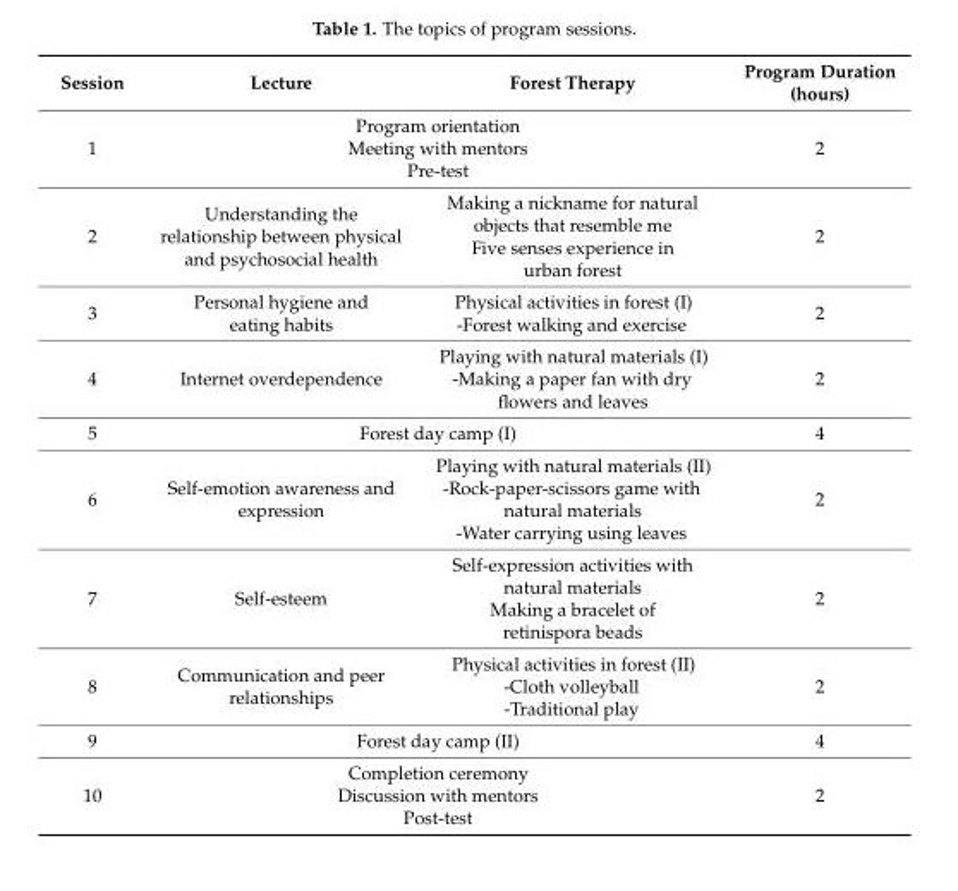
<table><thead><tr><td>Session</td><td>Lecture</td><td>Forest Therapy</td><td>Program Duration (hours)</td></tr></thead><tbody><tr><td>1</td><td colspan="2">Program orientation Meeting with mentors Pre-test</td><td>2</td></tr><tr><td>2</td><td>Understanding the relationship between physical and psychosocial health</td><td>Making a nickname for natural objects that resemble me Five senses experience in urban forest</td><td>2</td></tr><tr><td>3</td><td>Personal hygiene and eating habits</td><td>Physical activities in forest (I) -Forest walking and exercise</td><td>2</td></tr><tr><td>4</td><td>Internet overdependence</td><td>Playing with natural materials (I) -Making a paper fan with dry flowers and leaves</td><td>2</td></tr><tr><td>5</td><td colspan="2">Forest day camp (I)</td><td>4</td></tr><tr><td>6</td><td>Self-emotion awareness and expression</td><td>Playing with natural materials (II) -Rock-paper-scissors game with natural materials -Water carrying using leaves</td><td>2</td></tr><tr><td>7</td><td>Self-esteem</td><td>Self-expression activities with natural materials Making a bracelet of retinispora beads</td><td>2</td></tr><tr><td>8</td><td>Communication and peer relationships</td><td>Physical activities in forest (II) -Cloth volleyball -Traditional play</td><td>2</td></tr><tr><td>9</td><td colspan="2">Forest day camp (II)</td><td>4</td></tr><tr><td>10</td><td colspan="2">Completion ceremony Discussion with mentors Post-test</td><td>2</td></tr></tbody></table>